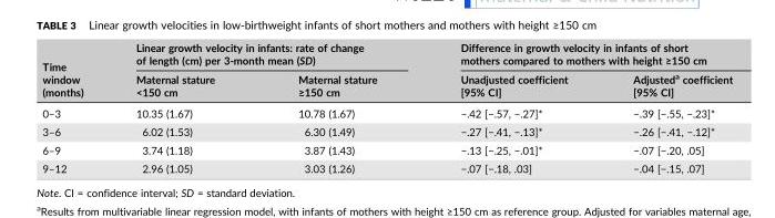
<table><thead><tr><td rowspan="2">Time window (months)</td><td colspan="2">Linear growth velocity in infants: rate of change of length (cm) per 3‐month mean (SD)</td><td colspan="2">Difference in growth velocity in infants of short mothers compared to mothers with height ≥150 cm</td></tr><tr><td>Maternal stature &lt;150 cm</td><td>Maternal stature ≥150 cm</td><td>Unadjusted coefficient [95% CI]</td><td>Adjusted<sup>a</sup> coefficient [95% CI]</td></tr></thead><tbody><tr><td>0–3</td><td>10.35 (1.67)</td><td>10.78 (1.67)</td><td>−.42 [−.57, −.27]*</td><td>−.39 [−.55, −.23]*</td></tr><tr><td>3–6</td><td>6.02 (1.53)</td><td>6.30 (1.49)</td><td>−.27 [−.41, −.13]*</td><td>−.26 [−.41, −.12]*</td></tr><tr><td>6–9</td><td>3.74 (1.18)</td><td>3.87 (1.43)</td><td>−.13 [−.25, −.01]*</td><td>−.07 [−.20, .05]</td></tr><tr><td>9–12</td><td>2.96 (1.05)</td><td>3.03 (1.26)</td><td>−.07 [−.18, .03]</td><td>−.04 [−.15, .07]</td></tr></tbody></table>